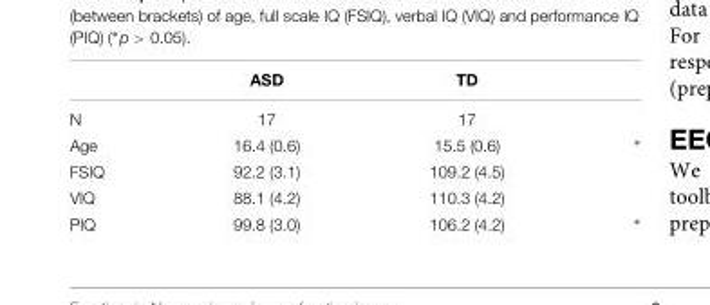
<table><thead><tr><td></td><td>ASD</td><td>TD</td><td></td></tr></thead><tbody><tr><td>N</td><td>17</td><td>17</td><td></td></tr><tr><td>Age</td><td>16.4 (0.6)</td><td>15.5 (0.6)</td><td>∗</td></tr><tr><td>FSIQ</td><td>92.2 (3.1)</td><td>109.2 (4.5)</td><td></td></tr><tr><td>VIQ</td><td>88.1 (4.2)</td><td>110.3 (4.2)</td><td></td></tr><tr><td>PIQ</td><td>99.8 (3.0)</td><td>106.2 (4.2)</td><td>∗</td></tr></tbody></table>